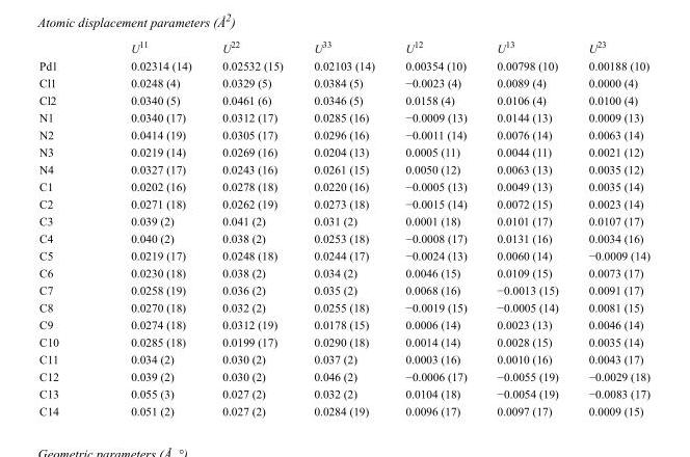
<table><thead><tr><td></td><td>U<sup>11</sup></td><td>U<sup>22</sup></td><td>U<sup>33</sup></td><td>U<sup>12</sup></td><td>U<sup>13</sup></td><td>U<sup>23</sup></td></tr></thead><tbody><tr><td>Pd1</td><td>0.02314 (14)</td><td>0.02532 (15)</td><td>0.02103 (14)</td><td>0.00354 (10)</td><td>0.00798 (10)</td><td>0.00188 (10)</td></tr><tr><td>Cl1</td><td>0.0248 (4)</td><td>0.0329 (5)</td><td>0.0384 (5)</td><td>−0.0023 (4)</td><td>0.0089 (4)</td><td>0.0000 (4)</td></tr><tr><td>Cl2</td><td>0.0340 (5)</td><td>0.0461 (6)</td><td>0.0346 (5)</td><td>0.0158 (4)</td><td>0.0106 (4)</td><td>0.0100 (4)</td></tr><tr><td>N1</td><td>0.0340 (17)</td><td>0.0312 (17)</td><td>0.0285 (16)</td><td>−0.0009 (13)</td><td>0.0144 (13)</td><td>0.0009 (13)</td></tr><tr><td>N2</td><td>0.0414 (19)</td><td>0.0305 (17)</td><td>0.0296 (16)</td><td>−0.0011 (14)</td><td>0.0076 (14)</td><td>0.0063 (14)</td></tr><tr><td>N3</td><td>0.0219 (14)</td><td>0.0269 (16)</td><td>0.0204 (13)</td><td>0.0005 (11)</td><td>0.0044 (11)</td><td>0.0021 (12)</td></tr><tr><td>N4</td><td>0.0327 (17)</td><td>0.0243 (16)</td><td>0.0261 (15)</td><td>0.0050 (12)</td><td>0.0063 (13)</td><td>0.0035 (12)</td></tr><tr><td>C1</td><td>0.0202 (16)</td><td>0.0278 (18)</td><td>0.0220 (16)</td><td>−0.0005 (13)</td><td>0.0049 (13)</td><td>0.0035 (14)</td></tr><tr><td>C2</td><td>0.0271 (18)</td><td>0.0262 (19)</td><td>0.0273 (18)</td><td>−0.0015 (14)</td><td>0.0072 (15)</td><td>0.0023 (14)</td></tr><tr><td>C3</td><td>0.039 (2)</td><td>0.041 (2)</td><td>0.031 (2)</td><td>0.0001 (18)</td><td>0.0101 (17)</td><td>0.0107 (17)</td></tr><tr><td>C4</td><td>0.040 (2)</td><td>0.038 (2)</td><td>0.0253 (18)</td><td>−0.0008 (17)</td><td>0.0131 (16)</td><td>0.0034 (16)</td></tr><tr><td>C5</td><td>0.0219 (17)</td><td>0.0248 (18)</td><td>0.0244 (17)</td><td>−0.0024 (13)</td><td>0.0060 (14)</td><td>−0.0009 (14)</td></tr><tr><td>C6</td><td>0.0230 (18)</td><td>0.038 (2)</td><td>0.034 (2)</td><td>0.0046 (15)</td><td>0.0109 (15)</td><td>0.0073 (17)</td></tr><tr><td>C7</td><td>0.0258 (19)</td><td>0.036 (2)</td><td>0.035 (2)</td><td>0.0068 (16)</td><td>−0.0013 (15)</td><td>0.0091 (17)</td></tr><tr><td>C8</td><td>0.0270 (18)</td><td>0.032 (2)</td><td>0.0255 (18)</td><td>−0.0019 (15)</td><td>−0.0005 (14)</td><td>0.0081 (15)</td></tr><tr><td>C9</td><td>0.0274 (18)</td><td>0.0312 (19)</td><td>0.0178 (15)</td><td>0.0006 (14)</td><td>0.0023 (13)</td><td>0.0046 (14)</td></tr><tr><td>C10</td><td>0.0285 (18)</td><td>0.0199 (17)</td><td>0.0290 (18)</td><td>0.0014 (14)</td><td>0.0028 (15)</td><td>0.0035 (14)</td></tr><tr><td>C11</td><td>0.034 (2)</td><td>0.030 (2)</td><td>0.037 (2)</td><td>0.0003 (16)</td><td>0.0010 (16)</td><td>0.0043 (17)</td></tr><tr><td>C12</td><td>0.039 (2)</td><td>0.030 (2)</td><td>0.046 (2)</td><td>−0.0006 (17)</td><td>−0.0055 (19)</td><td>−0.0029 (18)</td></tr><tr><td>C13</td><td>0.055 (3)</td><td>0.027 (2)</td><td>0.032 (2)</td><td>0.0104 (18)</td><td>−0.0054 (19)</td><td>−0.0083 (17)</td></tr><tr><td>C14</td><td>0.051 (2)</td><td>0.027 (2)</td><td>0.0284 (19)</td><td>0.0096 (17)</td><td>0.0097 (17)</td><td>0.0009 (15)</td></tr></tbody></table>